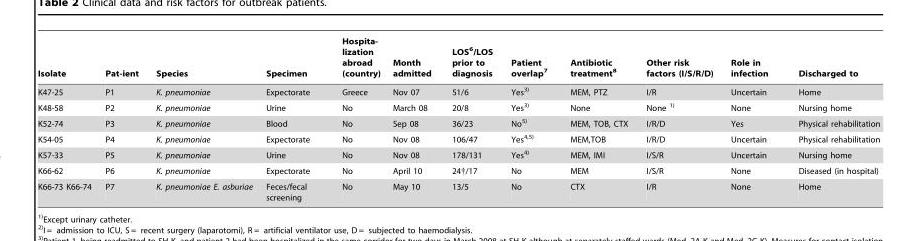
<table><thead><tr><td>Isolate</td><td>Pat-ient</td><td>Species</td><td>Specimen</td><td>Hospita- lization abroad (country)</td><td>Month admitted</td><td>LOS<sup>6</sup>/LOS prior to diagnosis</td><td>Patient overlap<sup>7</sup></td><td>Antibiotic treatment<sup>8</sup></td><td>Other risk factors (I/S/R/D)</td><td>Role in infection</td><td>Discharged to</td></tr></thead><tbody><tr><td>K47-25</td><td>P1</td><td>K. pneumoniae</td><td>Expectorate</td><td>Greece</td><td>Nov 07</td><td>51/6</td><td>Yes3)</td><td>MEM, PTZ</td><td>I/R</td><td>Uncertain</td><td>Home</td></tr><tr><td>K48-58</td><td>P2</td><td>K. pneumoniae</td><td>Urine</td><td>No</td><td>March 08</td><td>20/8</td><td>Yes3)</td><td>None</td><td>None 1)</td><td>None</td><td>Nursing home</td></tr><tr><td>K52-74</td><td>P3</td><td>K. pneumoniae</td><td>Blood</td><td>No</td><td>Sep 08</td><td>36/23</td><td>No5)</td><td>MEM, TOB, CTX</td><td>I/R/D</td><td>Yes</td><td>Physical rehabilitation</td></tr><tr><td>K54-05</td><td>P4</td><td>K. pneumoniae</td><td>Expectorate</td><td>No</td><td>Nov 08</td><td>106/47</td><td>Yes<sup>4,</sup>5)</td><td>MEM,TOB</td><td>I/R/D</td><td>Uncertain</td><td>Physical rehabilitation</td></tr><tr><td>K57-33</td><td>P5</td><td>K. pneumoniae</td><td>Urine</td><td>No</td><td>Nov 08</td><td>178/131</td><td>Yes4)</td><td>MEM, IMI</td><td>I/S/R</td><td>Uncertain</td><td>Nursing home</td></tr><tr><td>K66-62</td><td>P6</td><td>K. pneumoniae</td><td>Expectorate</td><td>No</td><td>April 10</td><td>24†/17</td><td>No</td><td>MEM</td><td>I/S/R</td><td>None</td><td>Diseased (in hospital)</td></tr><tr><td>K66-73 K66-74</td><td>P7</td><td>K. pneumoniae E. asburiae</td><td>Feces/fecal screening</td><td>No</td><td>May 10</td><td>13/5</td><td>No</td><td>CTX</td><td>I/R</td><td>None</td><td>Home</td></tr></tbody></table>